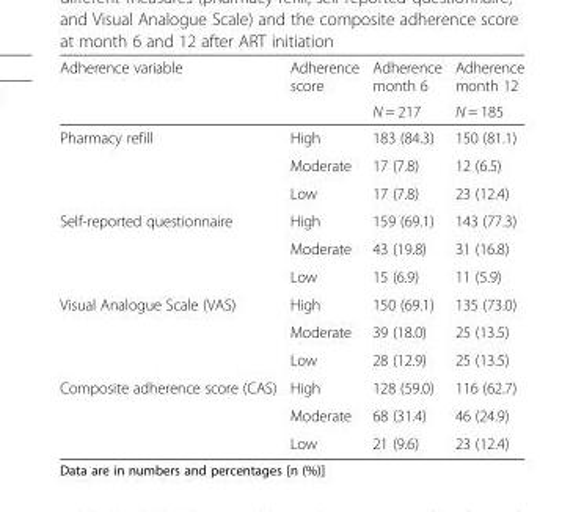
<table><thead><tr><td rowspan="2">Adherence variable</td><td rowspan="2">Adherence score</td><td rowspan="2">Adherence month 6 N = 217</td><td rowspan="2">Adherence month 12 N = 185</td></tr><tr></tr></thead><tbody><tr><td rowspan="3">Pharmacy refill</td><td>High</td><td>183 (84.3)</td><td>150 (81.1)</td></tr><tr><td>Moderate</td><td>17 (7.8)</td><td>12 (6.5)</td></tr><tr><td>Low</td><td>17 (7.8)</td><td>23 (12.4)</td></tr><tr><td rowspan="3">Self-reported questionnaire</td><td>High</td><td>159 (69.1)</td><td>143 (77.3)</td></tr><tr><td>Moderate</td><td>43 (19.8)</td><td>31 (16.8)</td></tr><tr><td>Low</td><td>15 (6.9)</td><td>11 (5.9)</td></tr><tr><td rowspan="3">Visual Analogue Scale (VAS)</td><td>High</td><td>150 (69.1)</td><td>135 (73.0)</td></tr><tr><td>Moderate</td><td>39 (18.0)</td><td>25 (13.5)</td></tr><tr><td>Low</td><td>28 (12.9)</td><td>25 (13.5)</td></tr><tr><td rowspan="3">Composite adherence score (CAS)</td><td>High</td><td>128 (59.0)</td><td>116 (62.7)</td></tr><tr><td>Moderate</td><td>68 (31.4)</td><td>46 (24.9)</td></tr><tr><td>Low</td><td>21 (9.6)</td><td>23 (12.4)</td></tr></tbody></table>